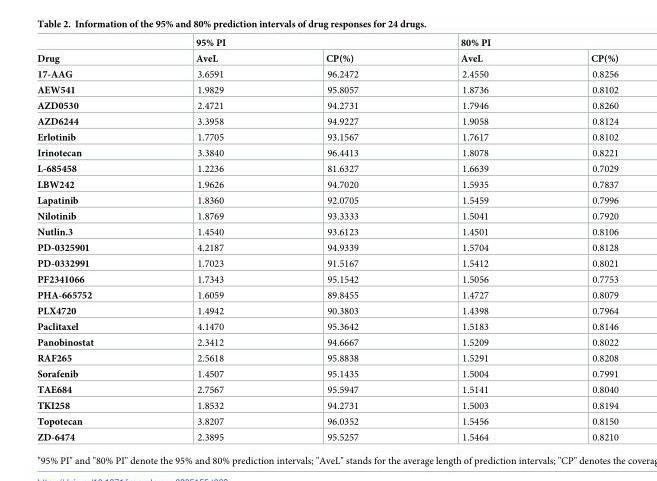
<table><thead><tr><td rowspan="2">Drug</td><td colspan="2">95% PI</td><td colspan="2">80% PI</td></tr><tr><td>AveL</td><td>CP(%)</td><td>AveL</td><td>CP(%)</td></tr></thead><tbody><tr><td>17-AAG</td><td>3.6591</td><td>96.2472</td><td>2.4550</td><td>0.8256</td></tr><tr><td>AEW541</td><td>1.9829</td><td>95.8057</td><td>1.8736</td><td>0.8102</td></tr><tr><td>AZD0530</td><td>2.4721</td><td>94.2731</td><td>1.7946</td><td>0.8260</td></tr><tr><td>AZD6244</td><td>3.3958</td><td>94.9227</td><td>1.9058</td><td>0.8124</td></tr><tr><td>Erlotinib</td><td>1.7705</td><td>93.1567</td><td>1.7617</td><td>0.8102</td></tr><tr><td>Irinotecan</td><td>3.3840</td><td>96.4413</td><td>1.8078</td><td>0.8221</td></tr><tr><td>L-685458</td><td>1.2236</td><td>81.6327</td><td>1.6639</td><td>0.7029</td></tr><tr><td>LBW242</td><td>1.9626</td><td>94.7020</td><td>1.5935</td><td>0.7837</td></tr><tr><td>Lapatinib</td><td>1.8360</td><td>92.0705</td><td>1.5459</td><td>0.7996</td></tr><tr><td>Nilotinib</td><td>1.8769</td><td>93.3333</td><td>1.5041</td><td>0.7920</td></tr><tr><td>Nutlin.3</td><td>1.4540</td><td>93.6123</td><td>1.4501</td><td>0.8106</td></tr><tr><td>PD-0325901</td><td>4.2187</td><td>94.9339</td><td>1.5704</td><td>0.8128</td></tr><tr><td>PD-0332991</td><td>1.7023</td><td>91.5167</td><td>1.5412</td><td>0.8021</td></tr><tr><td>PF2341066</td><td>1.7343</td><td>95.1542</td><td>1.5056</td><td>0.7753</td></tr><tr><td>PHA-665752</td><td>1.6059</td><td>89.8455</td><td>1.4727</td><td>0.8079</td></tr><tr><td>PLX4720</td><td>1.4942</td><td>90.3803</td><td>1.4398</td><td>0.7964</td></tr><tr><td>Paclitaxel</td><td>4.1470</td><td>95.3642</td><td>1.5183</td><td>0.8146</td></tr><tr><td>Panobinostat</td><td>2.3412</td><td>94.6667</td><td>1.5209</td><td>0.8022</td></tr><tr><td>RAF265</td><td>2.5618</td><td>95.8838</td><td>1.5291</td><td>0.8208</td></tr><tr><td>Sorafenib</td><td>1.4507</td><td>95.1435</td><td>1.5004</td><td>0.7991</td></tr><tr><td>TAE684</td><td>2.7567</td><td>95.5947</td><td>1.5141</td><td>0.8040</td></tr><tr><td>TKI258</td><td>1.8532</td><td>94.2731</td><td>1.5003</td><td>0.8194</td></tr><tr><td>Topotecan</td><td>3.8207</td><td>96.0352</td><td>1.5456</td><td>0.8150</td></tr><tr><td>ZD-6474</td><td>2.3895</td><td>95.5257</td><td>1.5464</td><td>0.8210</td></tr></tbody></table>